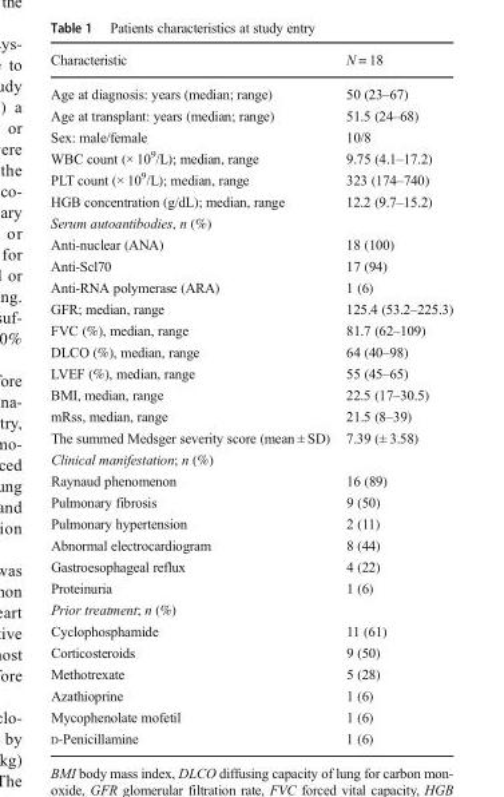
<table><thead><tr><td>Characteristic</td><td>N = 18</td></tr></thead><tbody><tr><td>Age at diagnosis: years (median; range)</td><td>50 (23–67)</td></tr><tr><td>Age at transplant: years (median; range)</td><td>51.5 (24–68)</td></tr><tr><td>Sex: male/female</td><td>10/8</td></tr><tr><td>WBC count (× 10<sup>9</sup>/L); median, range</td><td>9.75 (4.1–17.2)</td></tr><tr><td>PLT count (× 10<sup>9</sup>/L); median, range</td><td>323 (174–740)</td></tr><tr><td>HGB concentration (g/dL); median, range</td><td>12.2 (9.7–15.2)</td></tr><tr><td colspan="2">Serum autoantibodies, n (%)</td></tr><tr><td>Anti-nuclear (ANA)</td><td>18 (100)</td></tr><tr><td>Anti-Scl70</td><td>17 (94)</td></tr><tr><td>Anti-RNA polymerase (ARA)</td><td>1 (6)</td></tr><tr><td>GFR; median, range</td><td>125.4 (53.2–225.3)</td></tr><tr><td>FVC (%), median, range</td><td>81.7 (62–109)</td></tr><tr><td>DLCO (%), median, range</td><td>64 (40–98)</td></tr><tr><td>LVEF (%), median, range</td><td>55 (45–65)</td></tr><tr><td>BMI, median, range</td><td>22.5 (17–30.5)</td></tr><tr><td>mRss, median, range</td><td>21.5 (8–39)</td></tr><tr><td>The summed Medsger severity score (mean ± SD)</td><td>7.39 (± 3.58)</td></tr><tr><td colspan="2">Clinical manifestation; n (%)</td></tr><tr><td>Raynaud phenomenon</td><td>16 (89)</td></tr><tr><td>Pulmonary fibrosis</td><td>9 (50)</td></tr><tr><td>Pulmonary hypertension</td><td>2 (11)</td></tr><tr><td>Abnormal electrocardiogram</td><td>8 (44)</td></tr><tr><td>Gastroesophageal reflux</td><td>4 (22)</td></tr><tr><td>Proteinuria</td><td>1 (6)</td></tr><tr><td colspan="2">Prior treatment; n (%)</td></tr><tr><td>Cyclophosphamide</td><td>11 (61)</td></tr><tr><td>Corticosteroids</td><td>9 (50)</td></tr><tr><td>Methotrexate</td><td>5 (28)</td></tr><tr><td>Azathioprine</td><td>1 (6)</td></tr><tr><td>Mycophenolate mofetil</td><td>1 (6)</td></tr><tr><td>D-Penicillamine</td><td>1 (6)</td></tr></tbody></table>